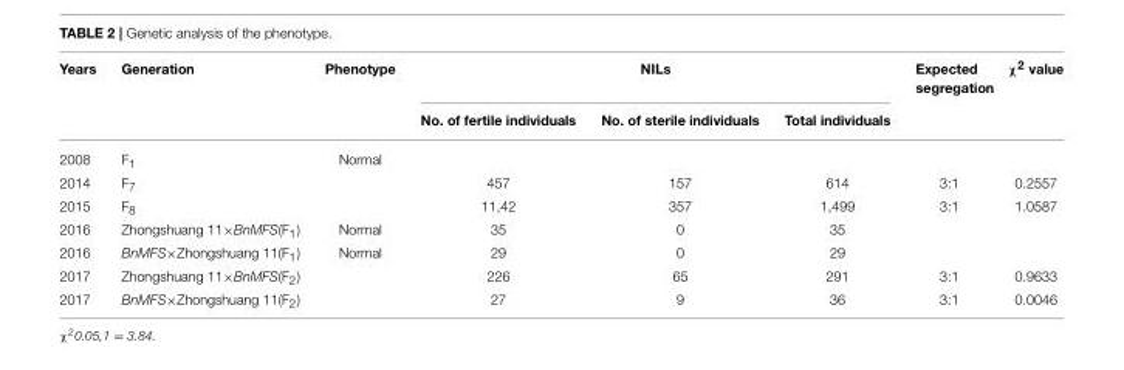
<table><thead><tr><td rowspan="2">Years</td><td rowspan="2">Generation</td><td rowspan="2">Phenotype</td><td colspan="3">NILs</td><td rowspan="2">Expected segregation</td><td rowspan="2">χ<sup>2</sup> value</td></tr><tr><td>No. of fertile individuals</td><td>No. of sterile individuals</td><td>Total individuals</td></tr></thead><tbody><tr><td>2008</td><td>F<sub>1</sub></td><td>Normal</td><td></td><td></td><td></td><td></td><td></td></tr><tr><td>2014</td><td>F<sub>7</sub></td><td></td><td>457</td><td>157</td><td>614</td><td>3:1</td><td>0.2557</td></tr><tr><td>2015</td><td>F<sub>8</sub></td><td></td><td>11,42</td><td>357</td><td>1,499</td><td>3:1</td><td>1.0587</td></tr><tr><td>2016</td><td>Zhongshuang 11×BnMFS(F<sub>1</sub>)</td><td>Normal</td><td>35</td><td>0</td><td>35</td><td></td><td></td></tr><tr><td>2016</td><td>BnMFS×Zhongshuang 11(F<sub>1</sub>)</td><td>Normal</td><td>29</td><td>0</td><td>29</td><td></td><td></td></tr><tr><td>2017</td><td>Zhongshuang 11×BnMFS(F<sub>2</sub>)</td><td></td><td>226</td><td>65</td><td>291</td><td>3:1</td><td>0.9633</td></tr><tr><td>2017</td><td>BnMFS×Zhongshuang 11(F<sub>2</sub>)</td><td></td><td>27</td><td>9</td><td>36</td><td>3:1</td><td>0.0046</td></tr></tbody></table>